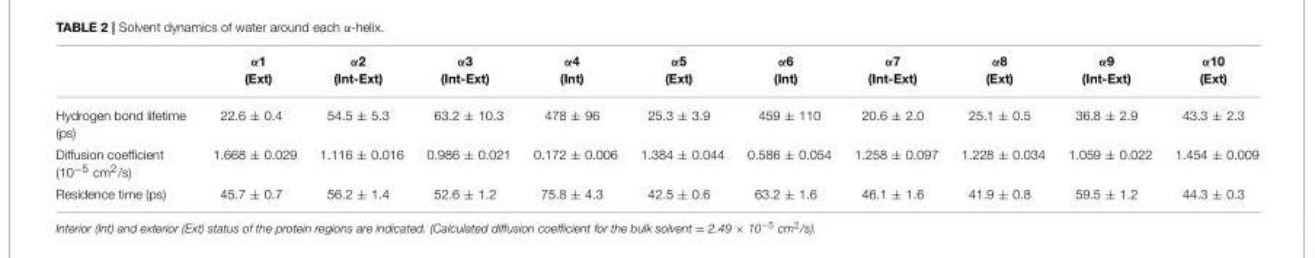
<table><thead><tr><td></td><td>α1 (Ext)</td><td>α2 (Int-Ext)</td><td>α3 (Int-Ext)</td><td>α4 (Int)</td><td>α5 (Ext)</td><td>α6 (Int)</td><td>α7 (Int-Ext)</td><td>α8 (Ext)</td><td>α9 (Int-Ext)</td><td>α10 (Ext)</td></tr></thead><tbody><tr><td>Hydrogen bond lifetime (ps)</td><td>22.6 ± 0.4</td><td>54.5 ± 5.3</td><td>63.2 ± 10.3</td><td>478 ± 96</td><td>25.3 ± 3.9</td><td>459 ± 110</td><td>20.6 ± 2.0</td><td>25.1 ± 0.5</td><td>36.8 ± 2.9</td><td>43.3 ± 2.3</td></tr><tr><td>Diffusion coefficient (10<sup>−5</sup> cm<sup>2</sup>/s)</td><td>1.668 ± 0.029</td><td>1.116 ± 0.016</td><td>0.986 ± 0.021</td><td>0.172 ± 0.006</td><td>1.384 ± 0.044</td><td>0.586 ± 0.054</td><td>1.258 ± 0.097</td><td>1.228 ± 0.034</td><td>1.059 ± 0.022</td><td>1.454 ± 0.009</td></tr><tr><td>Residence time (ps)</td><td>45.7 ± 0.7</td><td>56.2 ± 1.4</td><td>52.6 ± 1.2</td><td>75.8 ± 4.3</td><td>42.5 ± 0.6</td><td>63.2 ± 1.6</td><td>46.1 ± 1.6</td><td>41.9 ± 0.8</td><td>59.5 ± 1.2</td><td>44.3 ± 0.3</td></tr></tbody></table>